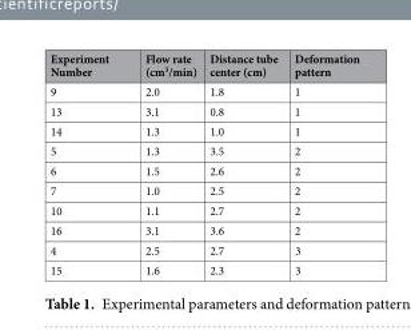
<table><thead><tr><td>Experiment Number</td><td>Flow rate (cm<sup>3</sup>/min)</td><td>Distance tube center (cm)</td><td>Deformation pattern</td></tr></thead><tbody><tr><td>9</td><td>2.0</td><td>1.8</td><td>1</td></tr><tr><td>13</td><td>3.1</td><td>0.8</td><td>1</td></tr><tr><td>14</td><td>1.3</td><td>1.0</td><td>1</td></tr><tr><td>5</td><td>1.3</td><td>3.5</td><td>2</td></tr><tr><td>6</td><td>1.5</td><td>2.6</td><td>2</td></tr><tr><td>7</td><td>1.0</td><td>2.5</td><td>2</td></tr><tr><td>10</td><td>1.1</td><td>2.7</td><td>2</td></tr><tr><td>16</td><td>3.1</td><td>3.6</td><td>2</td></tr><tr><td>4</td><td>2.5</td><td>2.7</td><td>3</td></tr><tr><td>15</td><td>1.6</td><td>2.3</td><td>3</td></tr></tbody></table>